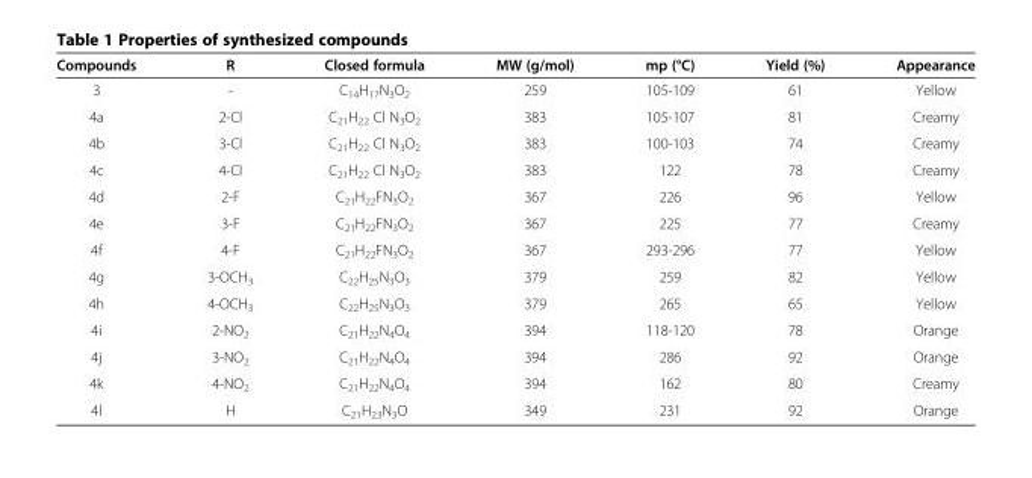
<table><thead><tr><td>Compounds</td><td>R</td><td>Closed formula</td><td>MW (g/mol)</td><td>mp (°C)</td><td>Yield (%)</td><td>Appearance</td></tr></thead><tbody><tr><td>3</td><td>-</td><td>C<sub>14</sub>H<sub>17</sub>N<sub>3</sub>O<sub>2</sub></td><td>259</td><td>105-109</td><td>61</td><td>Yellow</td></tr><tr><td>4a</td><td>2-Cl</td><td>C<sub>21</sub>H<sub>22</sub> Cl N<sub>3</sub>O<sub>2</sub></td><td>383</td><td>105-107</td><td>81</td><td>Creamy</td></tr><tr><td>4b</td><td>3-Cl</td><td>C<sub>21</sub>H<sub>22</sub> Cl N<sub>3</sub>O<sub>2</sub></td><td>383</td><td>100-103</td><td>74</td><td>Creamy</td></tr><tr><td>4c</td><td>4-Cl</td><td>C<sub>21</sub>H<sub>22</sub> Cl N<sub>3</sub>O<sub>2</sub></td><td>383</td><td>122</td><td>78</td><td>Creamy</td></tr><tr><td>4d</td><td>2-F</td><td>C<sub>21</sub>H<sub>22</sub>FN<sub>3</sub>O<sub>2</sub></td><td>367</td><td>226</td><td>96</td><td>Yellow</td></tr><tr><td>4e</td><td>3-F</td><td>C<sub>21</sub>H<sub>22</sub>FN<sub>3</sub>O<sub>2</sub></td><td>367</td><td>225</td><td>77</td><td>Creamy</td></tr><tr><td>4f</td><td>4-F</td><td>C<sub>21</sub>H<sub>22</sub>FN<sub>3</sub>O<sub>2</sub></td><td>367</td><td>293-296</td><td>77</td><td>Yellow</td></tr><tr><td>4g</td><td>3-OCH<sub>3</sub></td><td>C<sub>22</sub>H<sub>25</sub>N<sub>3</sub>O<sub>3</sub></td><td>379</td><td>259</td><td>82</td><td>Yellow</td></tr><tr><td>4h</td><td>4-OCH<sub>3</sub></td><td>C<sub>22</sub>H<sub>25</sub>N<sub>3</sub>O<sub>3</sub></td><td>379</td><td>265</td><td>65</td><td>Yellow</td></tr><tr><td>4i</td><td>2-NO<sub>2</sub></td><td>C<sub>21</sub>H<sub>22</sub>N<sub>4</sub>O<sub>4</sub></td><td>394</td><td>118-120</td><td>78</td><td>Orange</td></tr><tr><td>4j</td><td>3-NO<sub>2</sub></td><td>C<sub>21</sub>H<sub>22</sub>N<sub>4</sub>O<sub>4</sub></td><td>394</td><td>286</td><td>92</td><td>Orange</td></tr><tr><td>4k</td><td>4-NO<sub>2</sub></td><td>C<sub>21</sub>H<sub>22</sub>N<sub>4</sub>O<sub>4</sub></td><td>394</td><td>162</td><td>80</td><td>Creamy</td></tr><tr><td>4l</td><td>H</td><td>C<sub>21</sub>H<sub>23</sub>N<sub>3</sub>O</td><td>349</td><td>231</td><td>92</td><td>Orange</td></tr></tbody></table>